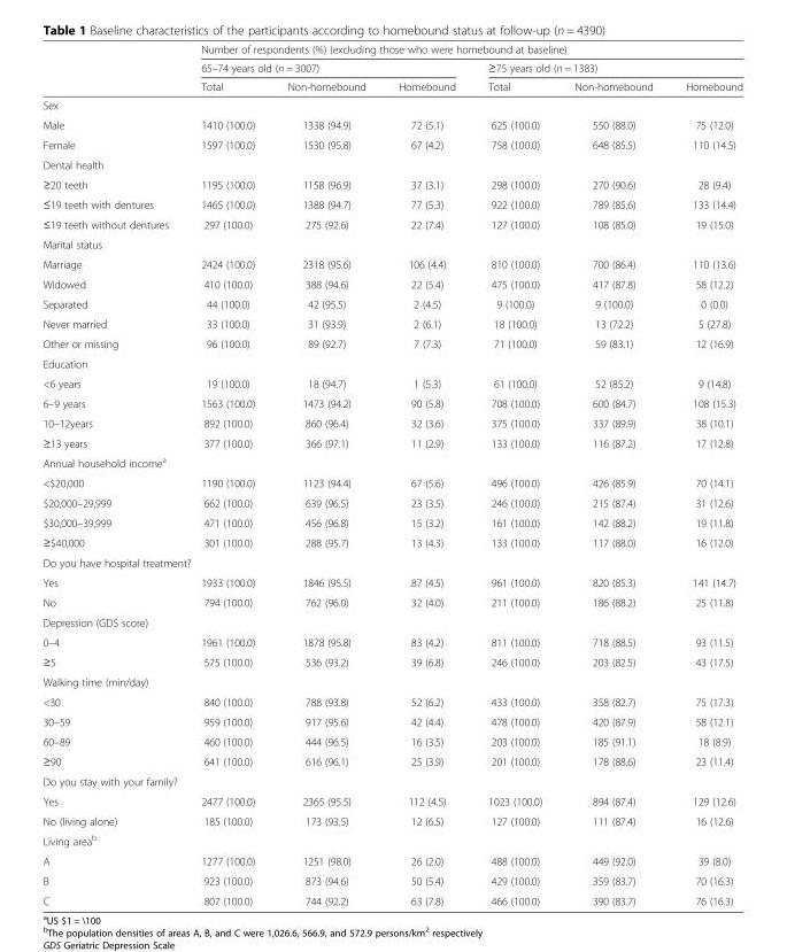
<table><thead><tr><td rowspan="3"></td><td colspan="6">Number of respondents (%) (excluding those who were homebound at baseline)</td></tr><tr><td colspan="3">65–74 years old (n = 3007)</td><td colspan="3">≥75 years old (n = 1383)</td></tr><tr><td>Total</td><td>Non-homebound</td><td>Homebound</td><td>Total</td><td>Non-homebound</td><td>Homebound</td></tr></thead><tbody><tr><td colspan="7">Sex</td></tr><tr><td>Male</td><td>1410 (100.0)</td><td>1338 (94.9)</td><td>72 (5.1)</td><td>625 (100.0)</td><td>550 (88.0)</td><td>75 (12.0)</td></tr><tr><td>Female</td><td>1597 (100.0)</td><td>1530 (95.8)</td><td>67 (4.2)</td><td>758 (100.0)</td><td>648 (85.5)</td><td>110 (14.5)</td></tr><tr><td colspan="7">Dental health</td></tr><tr><td>≥20 teeth</td><td>1195 (100.0)</td><td>1158 (96.9)</td><td>37 (3.1)</td><td>298 (100.0)</td><td>270 (90.6)</td><td>28 (9.4)</td></tr><tr><td>≤19 teeth with dentures</td><td>1465 (100.0)</td><td>1388 (94.7)</td><td>77 (5.3)</td><td>922 (100.0)</td><td>789 (85.6)</td><td>133 (14.4)</td></tr><tr><td>≤19 teeth without dentures</td><td>297 (100.0)</td><td>275 (92.6)</td><td>22 (7.4)</td><td>127 (100.0)</td><td>108 (85.0)</td><td>19 (15.0)</td></tr><tr><td colspan="7">Marital status</td></tr><tr><td>Marriage</td><td>2424 (100.0)</td><td>2318 (95.6)</td><td>106 (4.4)</td><td>810 (100.0)</td><td>700 (86.4)</td><td>110 (13.6)</td></tr><tr><td>Widowed</td><td>410 (100.0)</td><td>388 (94.6)</td><td>22 (5.4)</td><td>475 (100.0)</td><td>417 (87.8)</td><td>58 (12.2)</td></tr><tr><td>Separated</td><td>44 (100.0)</td><td>42 (95.5)</td><td>2 (4.5)</td><td>9 (100.0)</td><td>9 (100.0)</td><td>0 (0.0)</td></tr><tr><td>Never married</td><td>33 (100.0)</td><td>31 (93.9)</td><td>2 (6.1)</td><td>18 (100.0)</td><td>13 (72.2)</td><td>5 (27.8)</td></tr><tr><td>Other or missing</td><td>96 (100.0)</td><td>89 (92.7)</td><td>7 (7.3)</td><td>71 (100.0)</td><td>59 (83.1)</td><td>12 (16.9)</td></tr><tr><td colspan="7">Education</td></tr><tr><td>&lt;6 years</td><td>19 (100.0)</td><td>18 (94.7)</td><td>1 (5.3)</td><td>61 (100.0)</td><td>52 (85.2)</td><td>9 (14.8)</td></tr><tr><td>6–9 years</td><td>1563 (100.0)</td><td>1473 (94.2)</td><td>90 (5.8)</td><td>708 (100.0)</td><td>600 (84.7)</td><td>108 (15.3)</td></tr><tr><td>10–12years</td><td>892 (100.0)</td><td>860 (96.4)</td><td>32 (3.6)</td><td>375 (100.0)</td><td>337 (89.9)</td><td>38 (10.1)</td></tr><tr><td>≥13 years</td><td>377 (100.0)</td><td>366 (97.1)</td><td>11 (2.9)</td><td>133 (100.0)</td><td>116 (87.2)</td><td>17 (12.8)</td></tr><tr><td colspan="7">Annual household income<sup>a</sup></td></tr><tr><td>&lt;$20,000</td><td>1190 (100.0)</td><td>1123 (94.4)</td><td>67 (5.6)</td><td>496 (100.0)</td><td>426 (85.9)</td><td>70 (14.1)</td></tr><tr><td>$20,000–29,999</td><td>662 (100.0)</td><td>639 (96.5)</td><td>23 (3.5)</td><td>246 (100.0)</td><td>215 (87.4)</td><td>31 (12.6)</td></tr><tr><td>$30,000–39,999</td><td>471 (100.0)</td><td>456 (96.8)</td><td>15 (3.2)</td><td>161 (100.0)</td><td>142 (88.2)</td><td>19 (11.8)</td></tr><tr><td>≥$40,000</td><td>301 (100.0)</td><td>288 (95.7)</td><td>13 (4.3)</td><td>133 (100.0)</td><td>117 (88.0)</td><td>16 (12.0)</td></tr><tr><td colspan="7">Do you have hospital treatment?</td></tr><tr><td>Yes</td><td>1933 (100.0)</td><td>1846 (95.5)</td><td>87 (4.5)</td><td>961 (100.0)</td><td>820 (85.3)</td><td>141 (14.7)</td></tr><tr><td>No</td><td>794 (100.0)</td><td>762 (96.0)</td><td>32 (4.0)</td><td>211 (100.0)</td><td>186 (88.2)</td><td>25 (11.8)</td></tr><tr><td colspan="7">Depression (GDS score)</td></tr><tr><td>0–4</td><td>1961 (100.0)</td><td>1878 (95.8)</td><td>83 (4.2)</td><td>811 (100.0)</td><td>718 (88.5)</td><td>93 (11.5)</td></tr><tr><td>≥5</td><td>575 (100.0)</td><td>536 (93.2)</td><td>39 (6.8)</td><td>246 (100.0)</td><td>203 (82.5)</td><td>43 (17.5)</td></tr><tr><td colspan="7">Walking time (min/day)</td></tr><tr><td>&lt;30</td><td>840 (100.0)</td><td>788 (93.8)</td><td>52 (6.2)</td><td>433 (100.0)</td><td>358 (82.7)</td><td>75 (17.3)</td></tr><tr><td>30–59</td><td>959 (100.0)</td><td>917 (95.6)</td><td>42 (4.4)</td><td>478 (100.0)</td><td>420 (87.9)</td><td>58 (12.1)</td></tr><tr><td>60–89</td><td>460 (100.0)</td><td>444 (96.5)</td><td>16 (3.5)</td><td>203 (100.0)</td><td>185 (91.1)</td><td>18 (8.9)</td></tr><tr><td>≥90</td><td>641 (100.0)</td><td>616 (96.1)</td><td>25 (3.9)</td><td>201 (100.0)</td><td>178 (88.6)</td><td>23 (11.4)</td></tr><tr><td colspan="7">Do you stay with your family?</td></tr><tr><td>Yes</td><td>2477 (100.0)</td><td>2365 (95.5)</td><td>112 (4.5)</td><td>1023 (100.0)</td><td>894 (87.4)</td><td>129 (12.6)</td></tr><tr><td>No (living alone)</td><td>185 (100.0)</td><td>173 (93.5)</td><td>12 (6.5)</td><td>127 (100.0)</td><td>111 (87.4)</td><td>16 (12.6)</td></tr><tr><td colspan="7">Living area<sup>b</sup></td></tr><tr><td>A</td><td>1277 (100.0)</td><td>1251 (98.0)</td><td>26 (2.0)</td><td>488 (100.0)</td><td>449 (92.0)</td><td>39 (8.0)</td></tr><tr><td>B</td><td>923 (100.0)</td><td>873 (94.6)</td><td>50 (5.4)</td><td>429 (100.0)</td><td>359 (83.7)</td><td>70 (16.3)</td></tr><tr><td>C</td><td>807 (100.0)</td><td>744 (92.2)</td><td>63 (7.8)</td><td>466 (100.0)</td><td>390 (83.7)</td><td>76 (16.3)</td></tr></tbody></table>